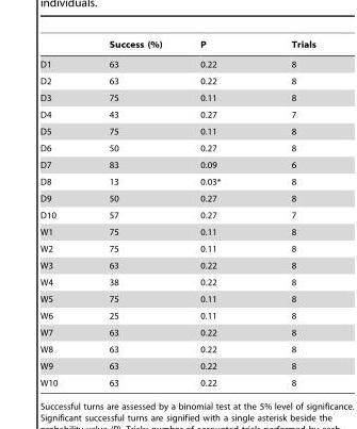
<table><thead><tr><td></td><td>Success (%)</td><td>P</td><td>Trials</td></tr></thead><tbody><tr><td>D1</td><td>63</td><td>0.22</td><td>8</td></tr><tr><td>D2</td><td>63</td><td>0.22</td><td>8</td></tr><tr><td>D3</td><td>75</td><td>0.11</td><td>8</td></tr><tr><td>D4</td><td>43</td><td>0.27</td><td>7</td></tr><tr><td>D5</td><td>75</td><td>0.11</td><td>8</td></tr><tr><td>D6</td><td>50</td><td>0.27</td><td>8</td></tr><tr><td>D7</td><td>83</td><td>0.09</td><td>6</td></tr><tr><td>D8</td><td>13</td><td>0.03*</td><td>8</td></tr><tr><td>D9</td><td>50</td><td>0.27</td><td>8</td></tr><tr><td>D10</td><td>57</td><td>0.27</td><td>7</td></tr><tr><td>W1</td><td>75</td><td>0.11</td><td>8</td></tr><tr><td>W2</td><td>75</td><td>0.11</td><td>8</td></tr><tr><td>W3</td><td>63</td><td>0.22</td><td>8</td></tr><tr><td>W4</td><td>38</td><td>0.22</td><td>8</td></tr><tr><td>W5</td><td>75</td><td>0.11</td><td>8</td></tr><tr><td>W6</td><td>25</td><td>0.11</td><td>8</td></tr><tr><td>W7</td><td>63</td><td>0.22</td><td>8</td></tr><tr><td>W8</td><td>63</td><td>0.22</td><td>8</td></tr><tr><td>W9</td><td>63</td><td>0.22</td><td>8</td></tr><tr><td>W10</td><td>63</td><td>0.22</td><td>8</td></tr></tbody></table>